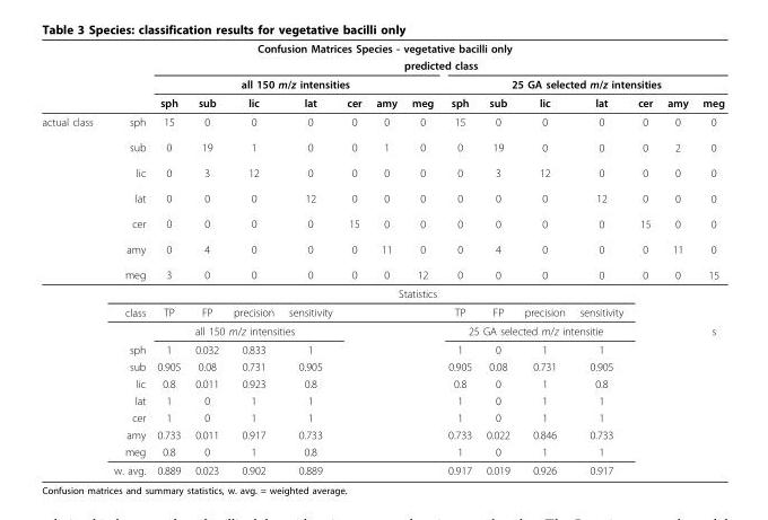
<table><thead><tr><td colspan="16">Confusion Matrices Species - vegetative bacilli only</td></tr><tr><td rowspan="3"></td><td rowspan="3"></td><td colspan="14">predicted class</td></tr><tr><td colspan="7">all 150 m/z intensities</td><td colspan="7">25 GA selected m/z intensities</td></tr><tr><td>sph</td><td>sub</td><td>lic</td><td>lat</td><td>cer</td><td>amy</td><td>meg</td><td>sph</td><td>sub</td><td>lic</td><td>lat</td><td>cer</td><td>amy</td><td>meg</td></tr></thead><tbody><tr><td rowspan="12">actual class</td><td>sph sub lic lat cer amy meg</td><td>15 0 0 0 0 0 3</td><td>0 19 3 0 0 4 0</td><td>0 1 12 0 0 0 0</td><td>0 0 0 12 0 0 0</td><td>0 0 0 0 15 0 0</td><td>0 1 0 0 0 11 0</td><td>0 0 0 0 0 0 12</td><td>15 0 0 0 0 0 0</td><td>0 19 3 0 0 4 0</td><td>0 0 12 0 0 0 0</td><td>0 0 0 12 0 0 0</td><td>0 0 0 0 15 0 0</td><td>0 2 0 0 0 11 0</td><td>0 0 0 0 0 0 15</td></tr><tr><td colspan="15">Statistics</td></tr><tr><td>class</td><td>TP</td><td>FP</td><td>precision</td><td>sensitivity</td><td></td><td></td><td></td><td>TP</td><td>FP</td><td>precision</td><td>sensitivity</td><td></td><td></td><td></td></tr><tr><td></td><td colspan="4">all 150 m/z intensities</td><td></td><td></td><td></td><td colspan="4">25 GA selected m/z intensitie</td><td></td><td></td><td>s</td></tr><tr><td>sph</td><td>1</td><td>0.032</td><td>0.833</td><td>1</td><td></td><td></td><td></td><td>1</td><td>0</td><td>1</td><td>1</td><td></td><td></td><td></td></tr><tr><td>sub</td><td>0.905</td><td>0.08</td><td>0.731</td><td>0.905</td><td></td><td></td><td></td><td>0.905</td><td>0.08</td><td>0.731</td><td>0.905</td><td></td><td></td><td></td></tr><tr><td>lic</td><td>0.8</td><td>0.011</td><td>0.923</td><td>0.8</td><td></td><td></td><td></td><td>0.8</td><td>0</td><td>1</td><td>0.8</td><td></td><td></td><td></td></tr><tr><td>lat</td><td>1</td><td>0</td><td>1</td><td>1</td><td></td><td></td><td></td><td>1</td><td>0</td><td>1</td><td>1</td><td></td><td></td><td></td></tr><tr><td>cer</td><td>1</td><td>0</td><td>1</td><td>1</td><td></td><td></td><td></td><td>1</td><td>0</td><td>1</td><td>1</td><td></td><td></td><td></td></tr><tr><td>amy</td><td>0.733</td><td>0.011</td><td>0.917</td><td>0.733</td><td></td><td></td><td></td><td>0.733</td><td>0.022</td><td>0.846</td><td>0.733</td><td></td><td></td><td></td></tr><tr><td>meg</td><td>0.8</td><td>0</td><td>1</td><td>0.8</td><td></td><td></td><td></td><td>1</td><td>0</td><td>1</td><td>1</td><td></td><td></td><td></td></tr><tr><td>w. avg.</td><td>0.889</td><td>0.023</td><td>0.902</td><td>0.889</td><td></td><td></td><td></td><td>0.917</td><td>0.019</td><td>0.926</td><td>0.917</td><td></td><td></td><td></td></tr></tbody></table>